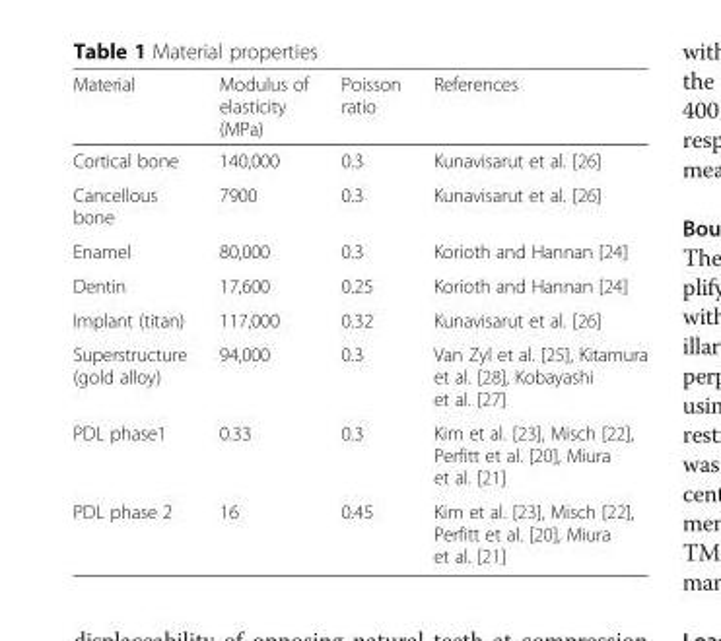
<table><thead><tr><td>Material</td><td>Modulus of elasticity (MPa)</td><td>Poisson ratio</td><td>References</td></tr></thead><tbody><tr><td>Cortical bone</td><td>140,000</td><td>0.3</td><td>Kunavisarut et al. [26]</td></tr><tr><td>Cancellous bone</td><td>7900</td><td>0.3</td><td>Kunavisarut et al. [26]</td></tr><tr><td>Enamel</td><td>80,000</td><td>0.3</td><td>Korioth and Hannan [24]</td></tr><tr><td>Dentin</td><td>17,600</td><td>0.25</td><td>Korioth and Hannan [24]</td></tr><tr><td>Implant (titan)</td><td>117,000</td><td>0.32</td><td>Kunavisarut et al. [26]</td></tr><tr><td>Superstructure (gold alloy)</td><td>94,000</td><td>0.3</td><td>Van Zyl et al. [25], Kitamura et al. [28], Kobayashi et al. [27]</td></tr><tr><td>PDL phase1</td><td>0.33</td><td>0.3</td><td>Kim et al. [23], Misch [22], Perfitt et al. [20], Miura et al. [21]</td></tr><tr><td>PDL phase 2</td><td>16</td><td>0.45</td><td>Kim et al. [23], Misch [22], Perfitt et al. [20], Miura et al. [21]</td></tr></tbody></table>